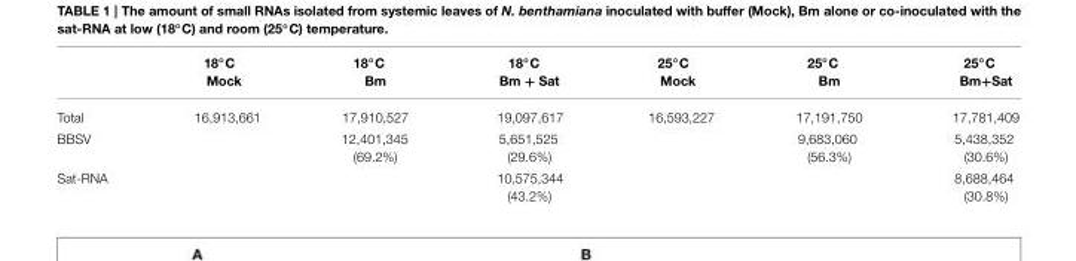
<table><thead><tr><td></td><td>18◦C Mock</td><td>18◦C Bm</td><td>18◦C Bm + Sat</td><td>25◦C Mock</td><td>25◦C Bm</td><td>25◦C Bm+Sat</td></tr></thead><tbody><tr><td>Total</td><td>16,913,661</td><td>17,910,527</td><td>19,097,617</td><td>16,593,227</td><td>17,191,750</td><td>17,781,409</td></tr><tr><td>BBSV</td><td></td><td>12,401,345 (69.2%)</td><td>5,651,525 (29.6%)</td><td></td><td>9,683,060 (56.3%)</td><td>5,438,352 (30.6%)</td></tr><tr><td>Sat-RNA</td><td></td><td></td><td>10,575,344 (43.2%)</td><td></td><td></td><td>8,688,464 (30.8%)</td></tr></tbody></table>